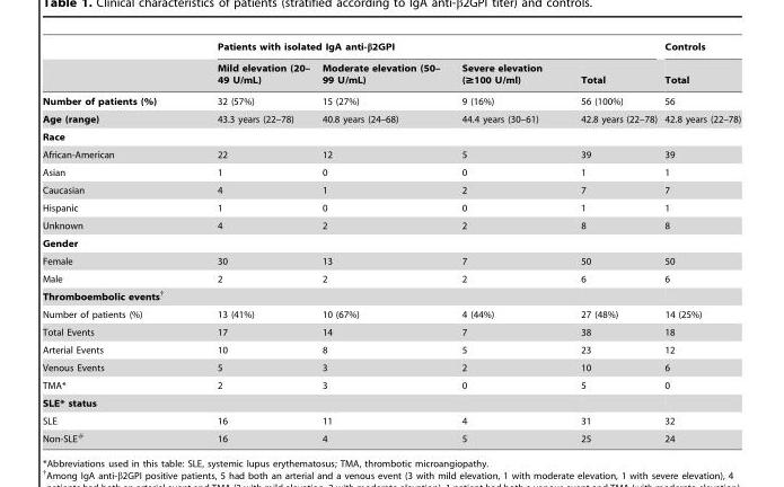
<table><thead><tr><td rowspan="2"></td><td colspan="4">Patients with isolated IgA anti-β2GPI</td><td rowspan="2">Controls Total</td></tr><tr><td>Mild elevation (20– 49 U/mL)</td><td>Moderate elevation (50– 99 U/mL)</td><td>Severe elevation (≥100 U/ml)</td><td>Total</td></tr></thead><tbody><tr><td>Number of patients (%)</td><td>32 (57%)</td><td>15 (27%)</td><td>9 (16%)</td><td>56 (100%)</td><td>56</td></tr><tr><td>Age (range)</td><td>43.3 years (22–78)</td><td>40.8 years (24–68)</td><td>44.4 years (30–61)</td><td>42.8 years (22–78)</td><td>42.8 years (22–78)</td></tr><tr><td colspan="6">Race</td></tr><tr><td>African-American</td><td>22</td><td>12</td><td>5</td><td>39</td><td>39</td></tr><tr><td>Asian</td><td>1</td><td>0</td><td>0</td><td>1</td><td>1</td></tr><tr><td>Caucasian</td><td>4</td><td>1</td><td>2</td><td>7</td><td>7</td></tr><tr><td>Hispanic</td><td>1</td><td>0</td><td>0</td><td>1</td><td>1</td></tr><tr><td>Unknown</td><td>4</td><td>2</td><td>2</td><td>8</td><td>8</td></tr><tr><td colspan="6">Gender</td></tr><tr><td>Female</td><td>30</td><td>13</td><td>7</td><td>50</td><td>50</td></tr><tr><td>Male</td><td>2</td><td>2</td><td>2</td><td>6</td><td>6</td></tr><tr><td colspan="6">Thromboembolic events†</td></tr><tr><td>Number of patients (%)</td><td>13 (41%)</td><td>10 (67%)</td><td>4 (44%)</td><td>27 (48%)</td><td>14 (25%)</td></tr><tr><td>Total Events</td><td>17</td><td>14</td><td>7</td><td>38</td><td>18</td></tr><tr><td>Arterial Events</td><td>10</td><td>8</td><td>5</td><td>23</td><td>12</td></tr><tr><td>Venous Events</td><td>5</td><td>3</td><td>2</td><td>10</td><td>6</td></tr><tr><td>TMA*</td><td>2</td><td>3</td><td>0</td><td>5</td><td>0</td></tr><tr><td colspan="6">SLE* status</td></tr><tr><td>SLE</td><td>16</td><td>11</td><td>4</td><td>31</td><td>32</td></tr><tr><td>Non-SLE#</td><td>16</td><td>4</td><td>5</td><td>25</td><td>24</td></tr></tbody></table>